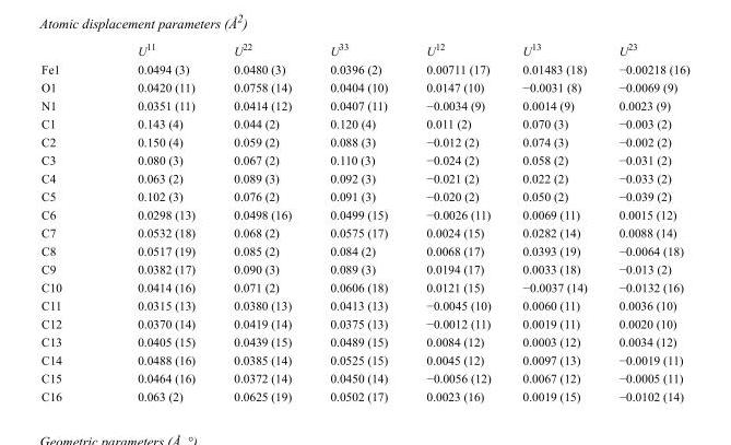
<table><thead><tr><td></td><td>U<sup>11</sup></td><td>U<sup>22</sup></td><td>U<sup>33</sup></td><td>U<sup>12</sup></td><td>U<sup>13</sup></td><td>U<sup>23</sup></td></tr></thead><tbody><tr><td>Fe1</td><td>0.0494 (3)</td><td>0.0480 (3)</td><td>0.0396 (2)</td><td>0.00711 (17)</td><td>0.01483 (18)</td><td>−0.00218 (16)</td></tr><tr><td>O1</td><td>0.0420 (11)</td><td>0.0758 (14)</td><td>0.0404 (10)</td><td>0.0147 (10)</td><td>−0.0031 (8)</td><td>−0.0069 (9)</td></tr><tr><td>N1</td><td>0.0351 (11)</td><td>0.0414 (12)</td><td>0.0407 (11)</td><td>−0.0034 (9)</td><td>0.0014 (9)</td><td>0.0023 (9)</td></tr><tr><td>C1</td><td>0.143 (4)</td><td>0.044 (2)</td><td>0.120 (4)</td><td>0.011 (2)</td><td>0.070 (3)</td><td>−0.003 (2)</td></tr><tr><td>C2</td><td>0.150 (4)</td><td>0.059 (2)</td><td>0.088 (3)</td><td>−0.012 (2)</td><td>0.074 (3)</td><td>−0.002 (2)</td></tr><tr><td>C3</td><td>0.080 (3)</td><td>0.067 (2)</td><td>0.110 (3)</td><td>−0.024 (2)</td><td>0.058 (2)</td><td>−0.031 (2)</td></tr><tr><td>C4</td><td>0.063 (2)</td><td>0.089 (3)</td><td>0.092 (3)</td><td>−0.021 (2)</td><td>0.022 (2)</td><td>−0.033 (2)</td></tr><tr><td>C5</td><td>0.102 (3)</td><td>0.076 (2)</td><td>0.091 (3)</td><td>−0.020 (2)</td><td>0.050 (2)</td><td>−0.039 (2)</td></tr><tr><td>C6</td><td>0.0298 (13)</td><td>0.0498 (16)</td><td>0.0499 (15)</td><td>−0.0026 (11)</td><td>0.0069 (11)</td><td>0.0015 (12)</td></tr><tr><td>C7</td><td>0.0532 (18)</td><td>0.068 (2)</td><td>0.0575 (17)</td><td>0.0024 (15)</td><td>0.0282 (14)</td><td>0.0088 (14)</td></tr><tr><td>C8</td><td>0.0517 (19)</td><td>0.085 (2)</td><td>0.084 (2)</td><td>0.0068 (17)</td><td>0.0393 (19)</td><td>−0.0064 (18)</td></tr><tr><td>C9</td><td>0.0382 (17)</td><td>0.090 (3)</td><td>0.089 (3)</td><td>0.0194 (17)</td><td>0.0033 (18)</td><td>−0.013 (2)</td></tr><tr><td>C10</td><td>0.0414 (16)</td><td>0.071 (2)</td><td>0.0606 (18)</td><td>0.0121 (15)</td><td>−0.0037 (14)</td><td>−0.0132 (16)</td></tr><tr><td>C11</td><td>0.0315 (13)</td><td>0.0380 (13)</td><td>0.0413 (13)</td><td>−0.0045 (10)</td><td>0.0060 (11)</td><td>0.0036 (10)</td></tr><tr><td>C12</td><td>0.0370 (14)</td><td>0.0419 (14)</td><td>0.0375 (13)</td><td>−0.0012 (11)</td><td>0.0019 (11)</td><td>0.0020 (10)</td></tr><tr><td>C13</td><td>0.0405 (15)</td><td>0.0439 (15)</td><td>0.0489 (15)</td><td>0.0084 (12)</td><td>0.0003 (12)</td><td>0.0034 (12)</td></tr><tr><td>C14</td><td>0.0488 (16)</td><td>0.0385 (14)</td><td>0.0525 (15)</td><td>0.0045 (12)</td><td>0.0097 (13)</td><td>−0.0019 (11)</td></tr><tr><td>C15</td><td>0.0464 (16)</td><td>0.0372 (14)</td><td>0.0450 (14)</td><td>−0.0056 (12)</td><td>0.0067 (12)</td><td>−0.0005 (11)</td></tr><tr><td>C16</td><td>0.063 (2)</td><td>0.0625 (19)</td><td>0.0502 (17)</td><td>0.0023 (16)</td><td>0.0019 (15)</td><td>−0.0102 (14)</td></tr></tbody></table>